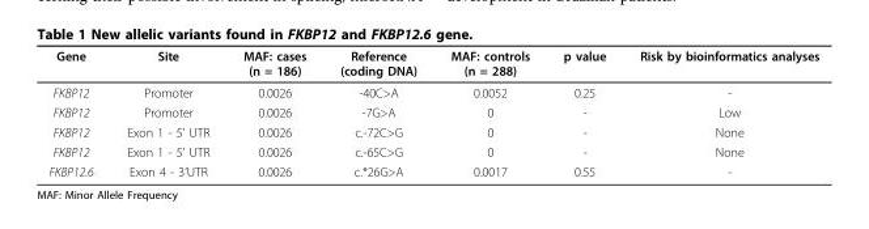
<table><thead><tr><td>Gene</td><td>Site</td><td>MAF: cases (n = 186)</td><td>Reference (coding DNA)</td><td>MAF: controls (n = 288)</td><td>p value</td><td>Risk by bioinformatics analyses</td></tr></thead><tbody><tr><td>FKBP12</td><td>Promoter</td><td>0.0026</td><td>-40C&gt;A</td><td>0.0052</td><td>0.25</td><td>-</td></tr><tr><td>FKBP12</td><td>Promoter</td><td>0.0026</td><td>-7G&gt;A</td><td>0</td><td>-</td><td>Low</td></tr><tr><td>FKBP12</td><td>Exon 1 - 5’ UTR</td><td>0.0026</td><td>c.-72C&gt;G</td><td>0</td><td>-</td><td>None</td></tr><tr><td>FKBP12</td><td>Exon 1 - 5’ UTR</td><td>0.0026</td><td>c.-65C&gt;G</td><td>0</td><td>-</td><td>None</td></tr><tr><td>FKBP12.6</td><td>Exon 4 - 3’UTR</td><td>0.0026</td><td>c.*26G&gt;A</td><td>0.0017</td><td>0.55</td><td>-</td></tr></tbody></table>